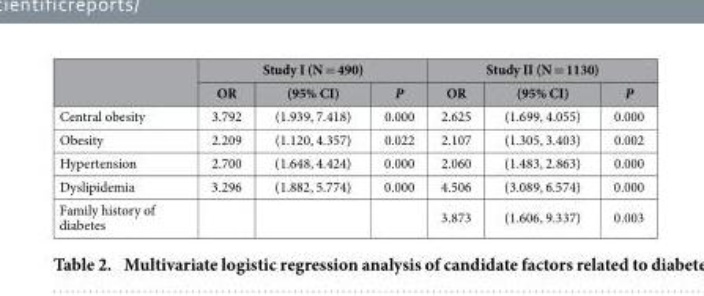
<table><thead><tr><td rowspan="2"></td><td colspan="3">Study I (N = 490)</td><td colspan="3">Study II (N = 1130)</td></tr><tr><td>OR</td><td>(95% CI)</td><td>P</td><td>OR</td><td>(95% CI)</td><td>P</td></tr></thead><tbody><tr><td>Central obesity</td><td>3.792</td><td>(1.939, 7.418)</td><td>0.000</td><td>2.625</td><td>(1.699, 4.055)</td><td>0.000</td></tr><tr><td>Obesity</td><td>2.209</td><td>(1.120, 4.357)</td><td>0.022</td><td>2.107</td><td>(1.305, 3.403)</td><td>0.002</td></tr><tr><td>Hypertension</td><td>2.700</td><td>(1.648, 4.424)</td><td>0.000</td><td>2.060</td><td>(1.483, 2.863)</td><td>0.000</td></tr><tr><td>Dyslipidemia</td><td>3.296</td><td>(1.882, 5.774)</td><td>0.000</td><td>4.506</td><td>(3.089, 6.574)</td><td>0.000</td></tr><tr><td>Family history of diabetes</td><td></td><td></td><td></td><td>3.873</td><td>(1.606, 9.337)</td><td>0.003</td></tr></tbody></table>